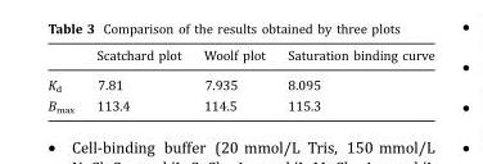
<table><thead><tr><td></td><td>Scatchard plot</td><td>Woolf plot</td><td>Saturation binding curve</td></tr></thead><tbody><tr><td>K<sub>d</sub></td><td>7.81</td><td>7.935</td><td>8.095</td></tr><tr><td>B<sub>max</sub></td><td>113.4</td><td>114.5</td><td>115.3</td></tr></tbody></table>